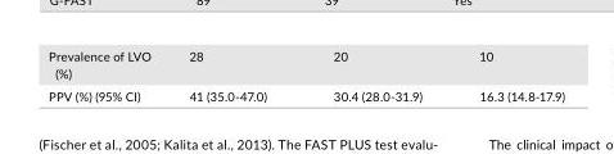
<table><tbody><tr><td>Prevalence of LVO (%)</td><td>28</td><td>20</td><td>10</td></tr><tr><td>PPV (%) (95% CI)</td><td>41 (35.0- 47.0)</td><td>30.4 (28.0- 31.9)</td><td>16.3 (14.8- 17.9)</td></tr></tbody></table>